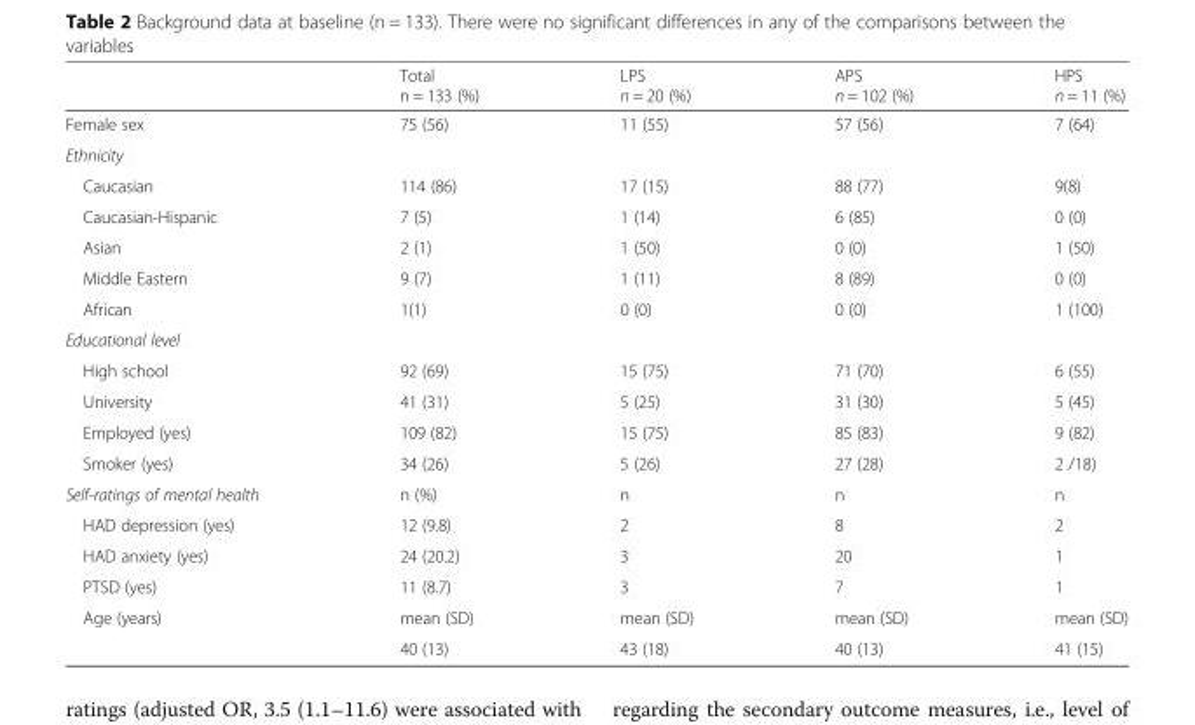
<table><thead><tr><td></td><td>Total n = 133 (%)</td><td>LPS n = 20 (%)</td><td>APS n = 102 (%)</td><td>HPS n = 11 (%)</td></tr></thead><tbody><tr><td>Female sex</td><td>75 (56)</td><td>11 (55)</td><td>57 (56)</td><td>7 (64)</td></tr><tr><td colspan="5">Ethnicity</td></tr><tr><td>Caucasian</td><td>114 (86)</td><td>17 (15)</td><td>88 (77)</td><td>9(8)</td></tr><tr><td>Caucasian-Hispanic</td><td>7 (5)</td><td>1 (14)</td><td>6 (85)</td><td>0 (0)</td></tr><tr><td>Asian</td><td>2 (1)</td><td>1 (50)</td><td>0 (0)</td><td>1 (50)</td></tr><tr><td>Middle Eastern</td><td>9 (7)</td><td>1 (11)</td><td>8 (89)</td><td>0 (0)</td></tr><tr><td>African</td><td>1(1)</td><td>0 (0)</td><td>0 (0)</td><td>1 (100)</td></tr><tr><td colspan="5">Educational level</td></tr><tr><td>High school</td><td>92 (69)</td><td>15 (75)</td><td>71 (70)</td><td>6 (55)</td></tr><tr><td>University</td><td>41 (31)</td><td>5 (25)</td><td>31 (30)</td><td>5 (45)</td></tr><tr><td>Employed (yes)</td><td>109 (82)</td><td>15 (75)</td><td>85 (83)</td><td>9 (82)</td></tr><tr><td>Smoker (yes)</td><td>34 (26)</td><td>5 (26)</td><td>27 (28)</td><td>2 /18)</td></tr><tr><td>Self-ratings of mental health</td><td>n (%)</td><td>n</td><td>n</td><td>n</td></tr><tr><td>HAD depression (yes)</td><td>12 (9.8)</td><td>2</td><td>8</td><td>2</td></tr><tr><td>HAD anxiety (yes)</td><td>24 (20.2)</td><td>3</td><td>20</td><td>1</td></tr><tr><td>PTSD (yes)</td><td>11 (8.7)</td><td>3</td><td>7</td><td>1</td></tr><tr><td rowspan="2">Age (years)</td><td>mean (SD)</td><td>mean (SD)</td><td>mean (SD)</td><td>mean (SD)</td></tr><tr><td>40 (13)</td><td>43 (18)</td><td>40 (13)</td><td>41 (15)</td></tr></tbody></table>